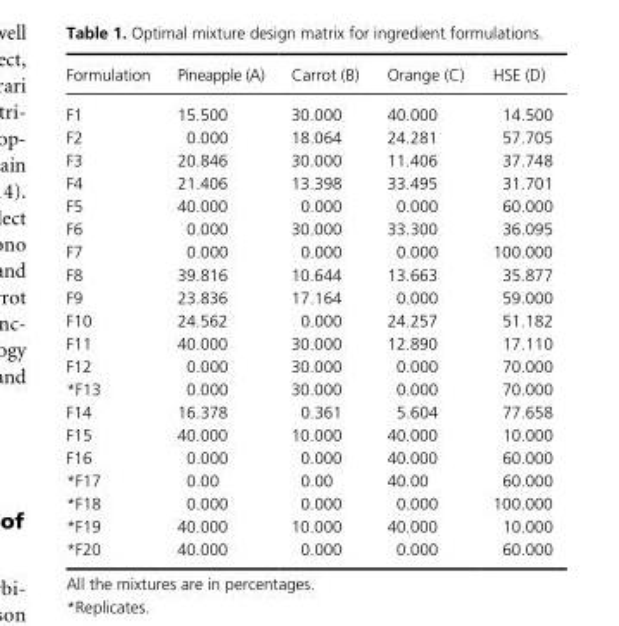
<table><thead><tr><td>Formulation</td><td>Pineapple (A)</td><td>Carrot (B)</td><td>Orange (C)</td><td>HSE (D)</td></tr></thead><tbody><tr><td>F1</td><td>15.500</td><td>30.000</td><td>40.000</td><td>14.500</td></tr><tr><td>F2</td><td>0.000</td><td>18.064</td><td>24.281</td><td>57.705</td></tr><tr><td>F3</td><td>20.846</td><td>30.000</td><td>11.406</td><td>37.748</td></tr><tr><td>F4</td><td>21.406</td><td>13.398</td><td>33.495</td><td>31.701</td></tr><tr><td>F5</td><td>40.000</td><td>0.000</td><td>0.000</td><td>60.000</td></tr><tr><td>F6</td><td>0.000</td><td>30.000</td><td>33.300</td><td>36.095</td></tr><tr><td>F7</td><td>0.000</td><td>0.000</td><td>0.000</td><td>100.000</td></tr><tr><td>F8</td><td>39.816</td><td>10.644</td><td>13.663</td><td>35.877</td></tr><tr><td>F9</td><td>23.836</td><td>17.164</td><td>0.000</td><td>59.000</td></tr><tr><td>F10</td><td>24.562</td><td>0.000</td><td>24.257</td><td>51.182</td></tr><tr><td>F11</td><td>40.000</td><td>30.000</td><td>12.890</td><td>17.110</td></tr><tr><td>F12</td><td>0.000</td><td>30.000</td><td>0.000</td><td>70.000</td></tr><tr><td>*F13</td><td>0.000</td><td>30.000</td><td>0.000</td><td>70.000</td></tr><tr><td>F14</td><td>16.378</td><td>0.361</td><td>5.604</td><td>77.658</td></tr><tr><td>F15</td><td>40.000</td><td>10.000</td><td>40.000</td><td>10.000</td></tr><tr><td>F16</td><td>0.000</td><td>0.000</td><td>40.000</td><td>60.000</td></tr><tr><td>*F17</td><td>0.00</td><td>0.00</td><td>40.00</td><td>60.000</td></tr><tr><td>*F18</td><td>0.000</td><td>0.000</td><td>0.000</td><td>100.000</td></tr><tr><td>*F19</td><td>40.000</td><td>10.000</td><td>40.000</td><td>10.000</td></tr><tr><td>*F20</td><td>40.000</td><td>0.000</td><td>0.000</td><td>60.000</td></tr></tbody></table>